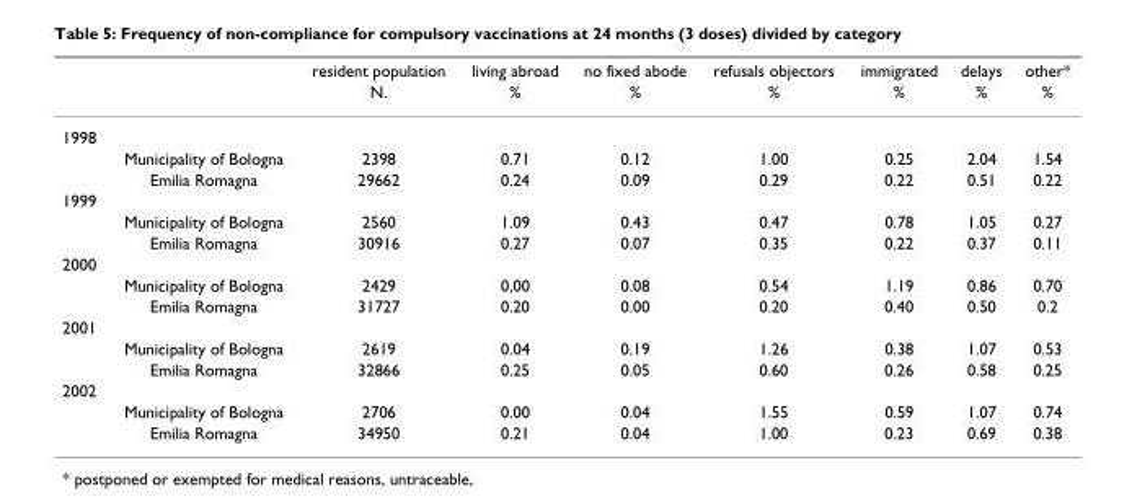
<table><thead><tr><td rowspan="2"></td><td rowspan="2"></td><td rowspan="2">resident population N.</td><td rowspan="2">living abroad %</td><td rowspan="2">no fixed abode %</td><td rowspan="2">refusals objectors %</td><td rowspan="2">immigrated %</td><td rowspan="2">delays %</td><td rowspan="2">other* %</td></tr><tr></tr></thead><tbody><tr><td colspan="9">1998</td></tr><tr><td></td><td>Municipality of Bologna</td><td>2398</td><td>0.71</td><td>0.12</td><td>1.00</td><td>0.25</td><td>2.04</td><td>1.54</td></tr><tr><td></td><td>Emilia Romagna</td><td>29662</td><td>0.24</td><td>0.09</td><td>0.29</td><td>0.22</td><td>0.51</td><td>0.22</td></tr><tr><td colspan="9">1999</td></tr><tr><td></td><td>Municipality of Bologna</td><td>2560</td><td>1.09</td><td>0.43</td><td>0.47</td><td>0.78</td><td>1.05</td><td>0.27</td></tr><tr><td></td><td>Emilia Romagna</td><td>30916</td><td>0.27</td><td>0.07</td><td>0.35</td><td>0.22</td><td>0.37</td><td>0.11</td></tr><tr><td colspan="9">2000</td></tr><tr><td></td><td>Municipality of Bologna</td><td>2429</td><td>0,00</td><td>0.08</td><td>0.54</td><td>1.19</td><td>0.86</td><td>0.70</td></tr><tr><td></td><td>Emilia Romagna</td><td>31727</td><td>0.20</td><td>0.00</td><td>0.20</td><td>0.40</td><td>0.50</td><td>0.2</td></tr><tr><td colspan="9">2001</td></tr><tr><td></td><td>Municipality of Bologna</td><td>2619</td><td>0.04</td><td>0.19</td><td>1.26</td><td>0.38</td><td>1.07</td><td>0.53</td></tr><tr><td></td><td>Emilia Romagna</td><td>32866</td><td>0.25</td><td>0.05</td><td>0.60</td><td>0.26</td><td>0.58</td><td>0.25</td></tr><tr><td colspan="9">2002</td></tr><tr><td></td><td>Municipality of Bologna</td><td>2706</td><td>0.00</td><td>0.04</td><td>1.55</td><td>0.59</td><td>1.07</td><td>0.74</td></tr><tr><td></td><td>Emilia Romagna</td><td>34950</td><td>0.21</td><td>0.04</td><td>1.00</td><td>0.23</td><td>0.69</td><td>0.38</td></tr></tbody></table>